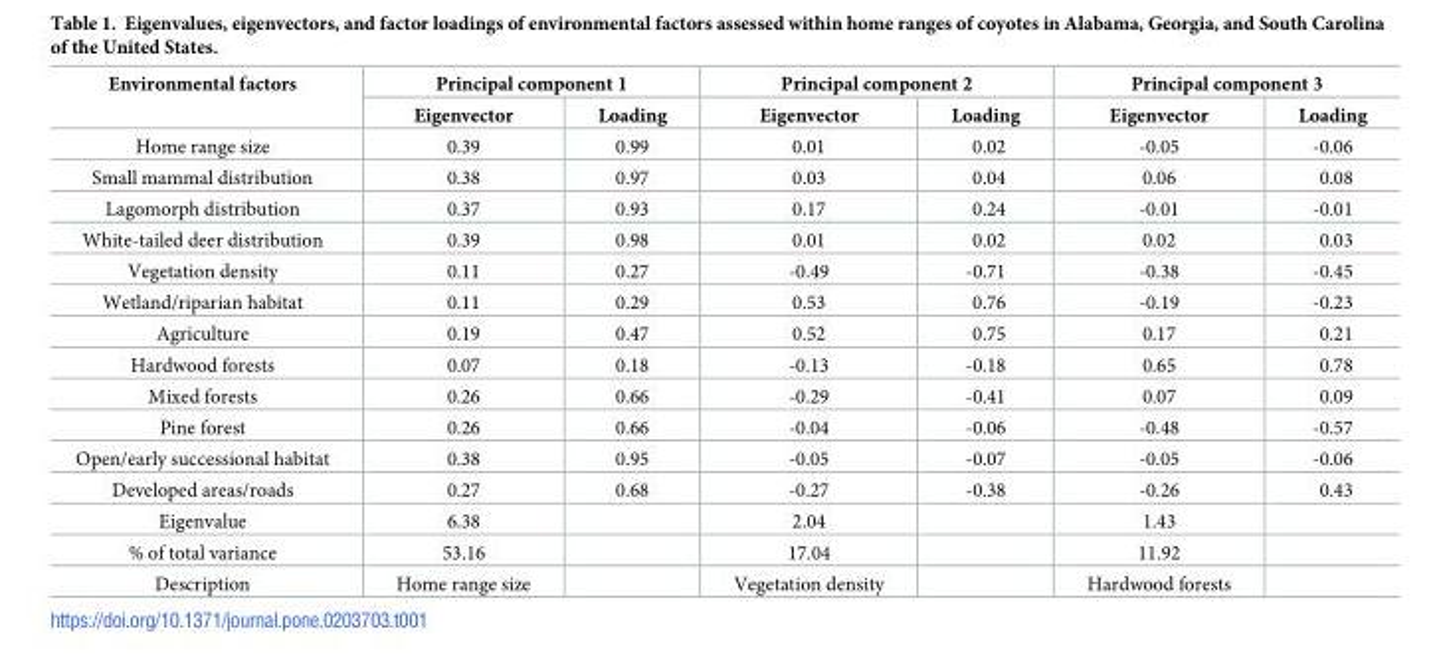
<table><thead><tr><td rowspan="2">Environmental factors</td><td colspan="2">Principal component 1</td><td colspan="2">Principal component 2</td><td colspan="2">Principal component 3</td></tr><tr><td>Eigenvector</td><td>Loading</td><td>Eigenvector</td><td>Loading</td><td>Eigenvector</td><td>Loading</td></tr></thead><tbody><tr><td>Home range size</td><td>0.39</td><td>0.99</td><td>0.01</td><td>0.02</td><td>-0.05</td><td>-0.06</td></tr><tr><td>Small mammal distribution</td><td>0.38</td><td>0.97</td><td>0.03</td><td>0.04</td><td>0.06</td><td>0.08</td></tr><tr><td>Lagomorph distribution</td><td>0.37</td><td>0.93</td><td>0.17</td><td>0.24</td><td>-0.01</td><td>-0.01</td></tr><tr><td>White-tailed deer distribution</td><td>0.39</td><td>0.98</td><td>0.01</td><td>0.02</td><td>0.02</td><td>0.03</td></tr><tr><td>Vegetation density</td><td>0.11</td><td>0.27</td><td>-0.49</td><td>-0.71</td><td>-0.38</td><td>-0.45</td></tr><tr><td>Wetland/riparian habitat</td><td>0.11</td><td>0.29</td><td>0.53</td><td>0.76</td><td>-0.19</td><td>-0.23</td></tr><tr><td>Agriculture</td><td>0.19</td><td>0.47</td><td>0.52</td><td>0.75</td><td>0.17</td><td>0.21</td></tr><tr><td>Hardwood forests</td><td>0.07</td><td>0.18</td><td>-0.13</td><td>-0.18</td><td>0.65</td><td>0.78</td></tr><tr><td>Mixed forests</td><td>0.26</td><td>0.66</td><td>-0.29</td><td>-0.41</td><td>0.07</td><td>0.09</td></tr><tr><td>Pine forest</td><td>0.26</td><td>0.66</td><td>-0.04</td><td>-0.06</td><td>-0.48</td><td>-0.57</td></tr><tr><td>Open/early successional habitat</td><td>0.38</td><td>0.95</td><td>-0.05</td><td>-0.07</td><td>-0.05</td><td>-0.06</td></tr><tr><td>Developed areas/roads</td><td>0.27</td><td>0.68</td><td>-0.27</td><td>-0.38</td><td>-0.26</td><td>0.43</td></tr><tr><td>Eigenvalue</td><td>6.38</td><td></td><td>2.04</td><td></td><td>1.43</td><td></td></tr><tr><td>% of total variance</td><td>53.16</td><td></td><td>17.04</td><td></td><td>11.92</td><td></td></tr><tr><td>Description</td><td>Home range size</td><td></td><td>Vegetation density</td><td></td><td>Hardwood forests</td><td></td></tr></tbody></table>